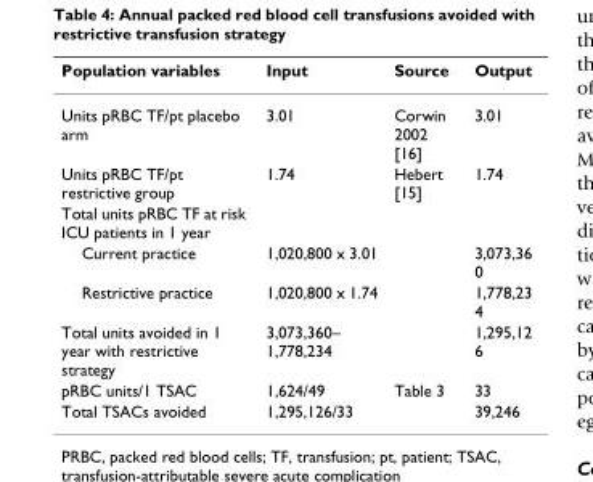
<table><thead><tr><td>Population variables</td><td>Input</td><td>Source</td><td>Output</td></tr></thead><tbody><tr><td>Units pRBC TF/pt placebo arm</td><td>3.01</td><td>Corwin 2002 [16]</td><td>3.01</td></tr><tr><td>Units pRBC TF/pt restrictive group</td><td>1.74</td><td>Hebert [15]</td><td>1.74</td></tr><tr><td colspan="4">Total units pRBC TF at risk ICU patients in 1 year</td></tr><tr><td>Current practice</td><td>1,020,800 x 3.01</td><td></td><td>3,073,36 0</td></tr><tr><td>Restrictive practice</td><td>1,020,800 x 1.74</td><td></td><td>1,778,23 4</td></tr><tr><td>Total units avoided in 1 year with restrictive strategy</td><td>3,073,360– 1,778,234</td><td></td><td>1,295,12 6</td></tr><tr><td>pRBC units/1 TSAC</td><td>1,624/49</td><td>Table 3</td><td>33</td></tr><tr><td>Total TSACs avoided</td><td>1,295,126/33</td><td></td><td>39,246</td></tr></tbody></table>